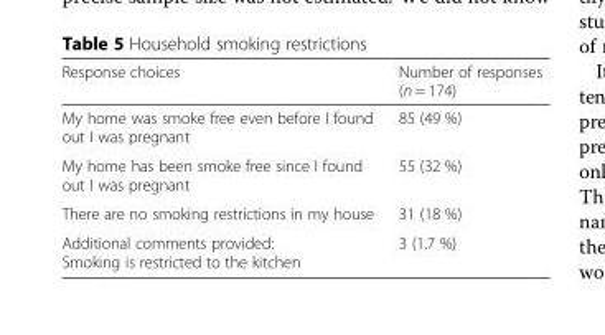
<table><thead><tr><td>Response choices</td><td>Number of responses (n = 174)</td></tr></thead><tbody><tr><td>My home was smoke free even before I found out I was pregnant</td><td>85 (49 %)</td></tr><tr><td>My home has been smoke free since I found out I was pregnant</td><td>55 (32 %)</td></tr><tr><td>There are no smoking restrictions in my house</td><td>31 (18 %)</td></tr><tr><td>Additional comments provided: Smoking is restricted to the kitchen</td><td>3 (1.7 %)</td></tr></tbody></table>